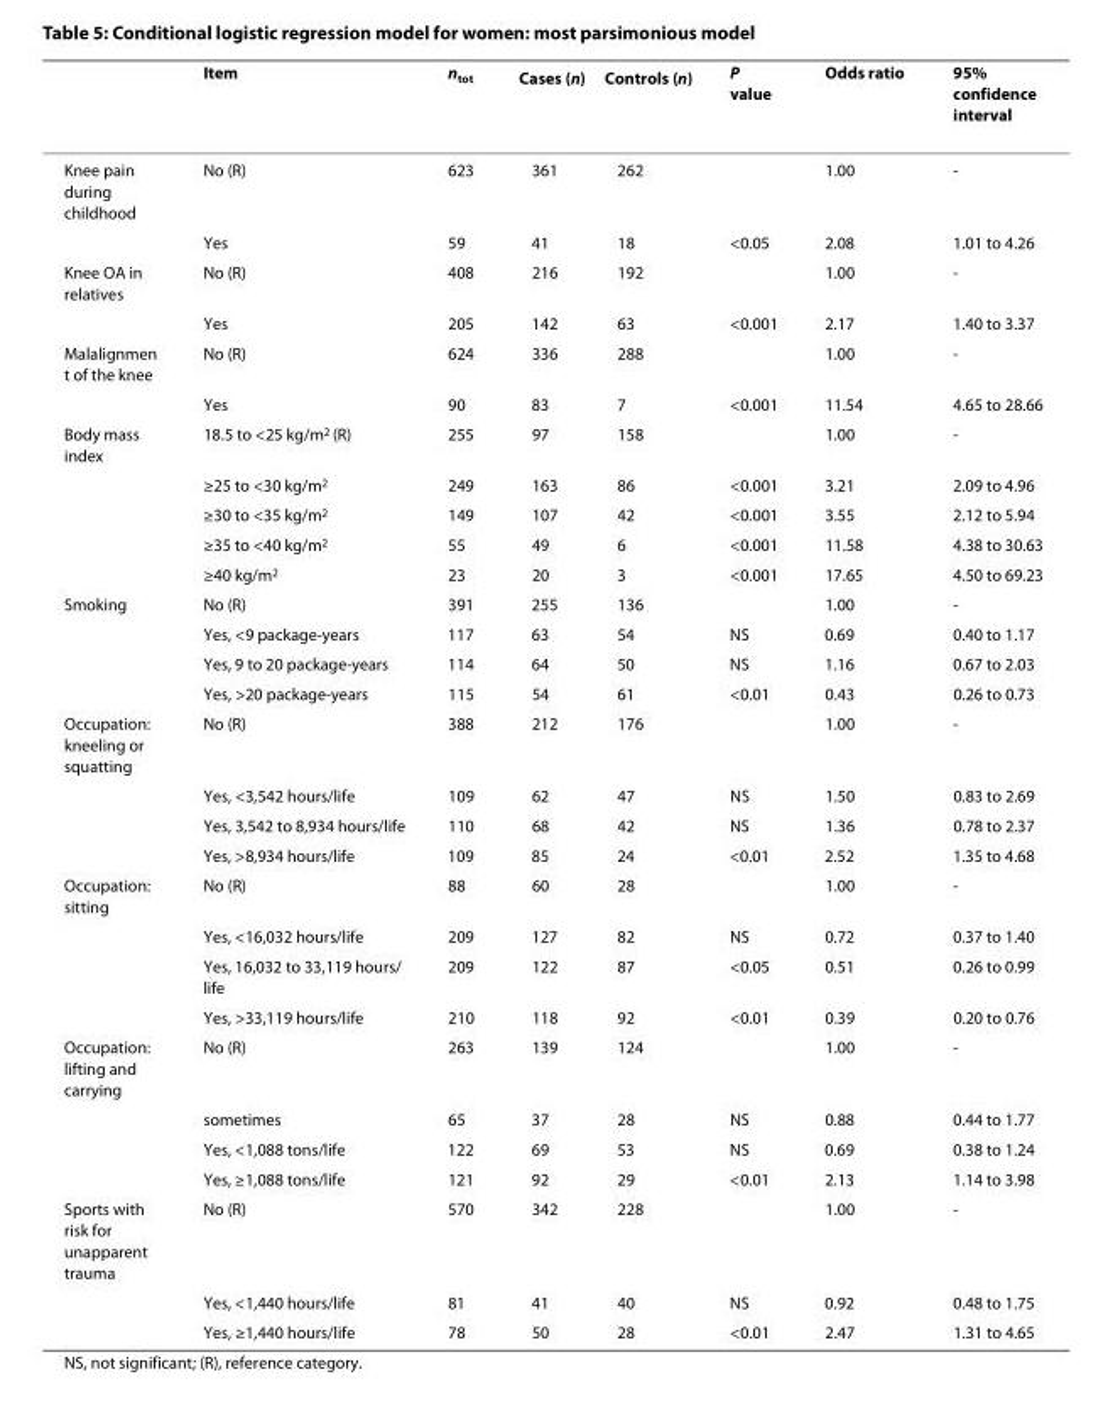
<table><thead><tr><td></td><td>Item</td><td>n<sub>tot</sub></td><td>Cases (n)</td><td>Controls (n)</td><td>P value</td><td>Odds ratio</td><td>95% confidence interval</td></tr></thead><tbody><tr><td rowspan="2">Knee pain during childhood</td><td>No (R)</td><td>623</td><td>361</td><td>262</td><td></td><td>1.00</td><td>-</td></tr><tr><td>Yes</td><td>59</td><td>41</td><td>18</td><td>&lt;0.05</td><td>2.08</td><td>1.01 to 4.26</td></tr><tr><td rowspan="2">Knee OA in relatives</td><td>No (R)</td><td>408</td><td>216</td><td>192</td><td></td><td>1.00</td><td>-</td></tr><tr><td>Yes</td><td>205</td><td>142</td><td>63</td><td>&lt;0.001</td><td>2.17</td><td>1.40 to 3.37</td></tr><tr><td rowspan="2">Malalignmen t of the knee</td><td>No (R)</td><td>624</td><td>336</td><td>288</td><td></td><td>1.00</td><td>-</td></tr><tr><td>Yes</td><td>90</td><td>83</td><td>7</td><td>&lt;0.001</td><td>11.54</td><td>4.65 to 28.66</td></tr><tr><td rowspan="5">Body mass index</td><td>18.5 to &lt;25 kg/m<sup>2</sup> (R)</td><td>255</td><td>97</td><td>158</td><td></td><td>1.00</td><td>-</td></tr><tr><td>≥25 to &lt;30 kg/m<sup>2</sup></td><td>249</td><td>163</td><td>86</td><td>&lt;0.001</td><td>3.21</td><td>2.09 to 4.96</td></tr><tr><td>≥30 to &lt;35 kg/m<sup>2</sup></td><td>149</td><td>107</td><td>42</td><td>&lt;0.001</td><td>3.55</td><td>2.12 to 5.94</td></tr><tr><td>≥35 to &lt;40 kg/m<sup>2</sup></td><td>55</td><td>49</td><td>6</td><td>&lt;0.001</td><td>11.58</td><td>4.38 to 30.63</td></tr><tr><td>≥40 kg/m<sup>2</sup></td><td>23</td><td>20</td><td>3</td><td>&lt;0.001</td><td>17.65</td><td>4.50 to 69.23</td></tr><tr><td rowspan="4">Smoking</td><td>No (R)</td><td>391</td><td>255</td><td>136</td><td></td><td>1.00</td><td>-</td></tr><tr><td>Yes, &lt;9 package-years</td><td>117</td><td>63</td><td>54</td><td>NS</td><td>0.69</td><td>0.40 to 1.17</td></tr><tr><td>Yes, 9 to 20 package-years</td><td>114</td><td>64</td><td>50</td><td>NS</td><td>1.16</td><td>0.67 to 2.03</td></tr><tr><td>Yes, &gt;20 package-years</td><td>115</td><td>54</td><td>61</td><td>&lt;0.01</td><td>0.43</td><td>0.26 to 0.73</td></tr><tr><td rowspan="4">Occupation: kneeling or squatting</td><td>No (R)</td><td>388</td><td>212</td><td>176</td><td></td><td>1.00</td><td>-</td></tr><tr><td>Yes, &lt;3,542 hours/life</td><td>109</td><td>62</td><td>47</td><td>NS</td><td>1.50</td><td>0.83 to 2.69</td></tr><tr><td>Yes, 3,542 to 8,934 hours/life</td><td>110</td><td>68</td><td>42</td><td>NS</td><td>1.36</td><td>0.78 to 2.37</td></tr><tr><td>Yes, &gt;8,934 hours/life</td><td>109</td><td>85</td><td>24</td><td>&lt;0.01</td><td>2.52</td><td>1.35 to 4.68</td></tr><tr><td rowspan="4">Occupation: sitting</td><td>No (R)</td><td>88</td><td>60</td><td>28</td><td></td><td>1.00</td><td>-</td></tr><tr><td>Yes, &lt;16,032 hours/life</td><td>209</td><td>127</td><td>82</td><td>NS</td><td>0.72</td><td>0.37 to 1.40</td></tr><tr><td>Yes, 16,032 to 33,119 hours/ life</td><td>209</td><td>122</td><td>87</td><td>&lt;0.05</td><td>0.51</td><td>0.26 to 0.99</td></tr><tr><td>Yes, &gt;33,119 hours/life</td><td>210</td><td>118</td><td>92</td><td>&lt;0.01</td><td>0.39</td><td>0.20 to 0.76</td></tr><tr><td rowspan="4">Occupation: lifting and carrying</td><td>No (R)</td><td>263</td><td>139</td><td>124</td><td></td><td>1.00</td><td>-</td></tr><tr><td>sometimes</td><td>65</td><td>37</td><td>28</td><td>NS</td><td>0.88</td><td>0.44 to 1.77</td></tr><tr><td>Yes, &lt;1,088 tons/life</td><td>122</td><td>69</td><td>53</td><td>NS</td><td>0.69</td><td>0.38 to 1.24</td></tr><tr><td>Yes, ≥1,088 tons/life</td><td>121</td><td>92</td><td>29</td><td>&lt;0.01</td><td>2.13</td><td>1.14 to 3.98</td></tr><tr><td rowspan="3">Sports with risk for unapparent trauma</td><td>No (R)</td><td>570</td><td>342</td><td>228</td><td></td><td>1.00</td><td>-</td></tr><tr><td>Yes, &lt;1,440 hours/life</td><td>81</td><td>41</td><td>40</td><td>NS</td><td>0.92</td><td>0.48 to 1.75</td></tr><tr><td>Yes, ≥1,440 hours/life</td><td>78</td><td>50</td><td>28</td><td>&lt;0.01</td><td>2.47</td><td>1.31 to 4.65</td></tr></tbody></table>